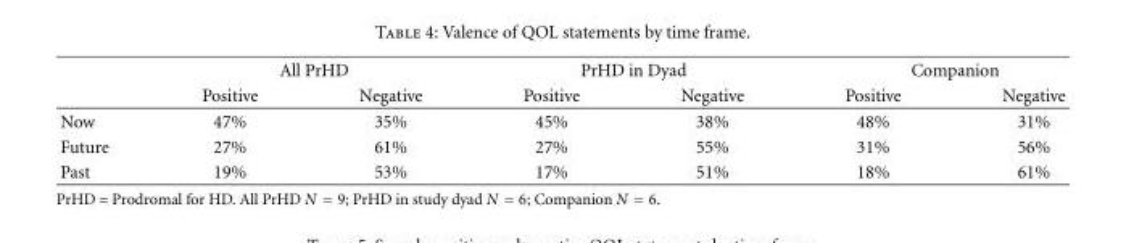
<table><thead><tr><td rowspan="2"></td><td colspan="2">All PrHD</td><td colspan="2">PrHD in Dyad</td><td colspan="2">Companion</td></tr><tr><td>Positive</td><td>Negative</td><td>Positive</td><td>Negative</td><td>Positive</td><td>Negative</td></tr></thead><tbody><tr><td>Now</td><td>47%</td><td>35%</td><td>45%</td><td>38%</td><td>48%</td><td>31%</td></tr><tr><td>Future</td><td>27%</td><td>61%</td><td>27%</td><td>55%</td><td>31%</td><td>56%</td></tr><tr><td>Past</td><td>19%</td><td>53%</td><td>17%</td><td>51%</td><td>18%</td><td>61%</td></tr></tbody></table>